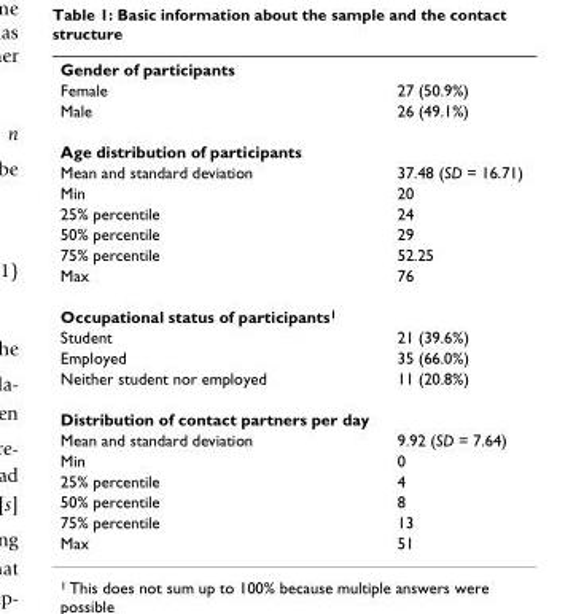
<table><tbody><tr><td colspan="2">Gender of participants</td></tr><tr><td>Female</td><td>27 (50.9%)</td></tr><tr><td>Male</td><td>26 (49.1%)</td></tr><tr><td colspan="2">Age distribution of participants</td></tr><tr><td>Mean and standard deviation</td><td>37.48 (SD = 16.71)</td></tr><tr><td>Min</td><td>20</td></tr><tr><td>25% percentile</td><td>24</td></tr><tr><td>50% percentile</td><td>29</td></tr><tr><td>75% percentile</td><td>52.25</td></tr><tr><td>Max</td><td>76</td></tr><tr><td colspan="2">Occupational status of participants<sup>1</sup></td></tr><tr><td>Student</td><td>21 (39.6%)</td></tr><tr><td>Employed</td><td>35 (66.0%)</td></tr><tr><td>Neither student nor employed</td><td>11 (20.8%)</td></tr><tr><td colspan="2">Distribution of contact partners per day</td></tr><tr><td>Mean and standard deviation</td><td>9.92 (SD = 7.64)</td></tr><tr><td>Min</td><td>0</td></tr><tr><td>25% percentile</td><td>4</td></tr><tr><td>50% percentile</td><td>8</td></tr><tr><td>75% percentile</td><td>13</td></tr><tr><td>Max</td><td>51</td></tr></tbody></table>